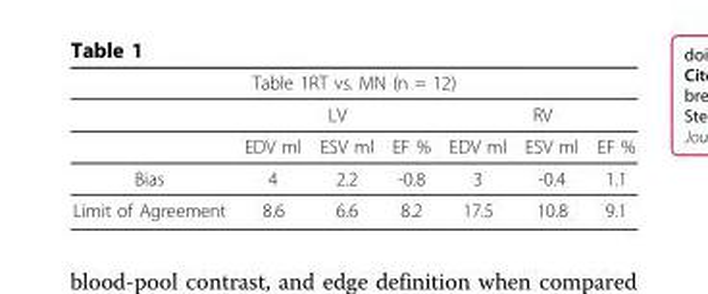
<table><thead><tr><td colspan="7">Table 1RT vs. MN (n = 12)</td></tr><tr><td rowspan="2"></td><td colspan="3">LV</td><td colspan="3">RV</td></tr><tr><td>EDV ml</td><td>ESV ml</td><td>EF %</td><td>EDV ml</td><td>ESV ml</td><td>EF %</td></tr></thead><tbody><tr><td>Bias</td><td>4</td><td>2.2</td><td>-0.8</td><td>3</td><td>-0.4</td><td>1.1</td></tr><tr><td>Limit of Agreement</td><td>8.6</td><td>6.6</td><td>8.2</td><td>17.5</td><td>10.8</td><td>9.1</td></tr></tbody></table>